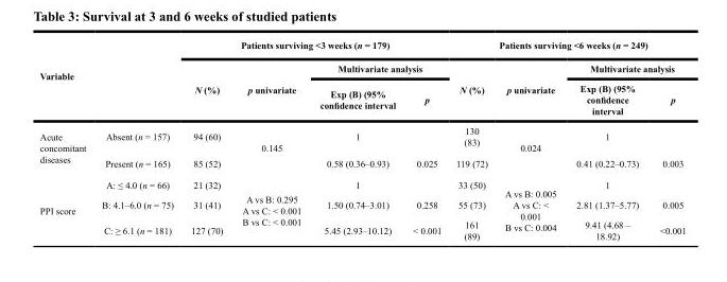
<table><thead><tr><td rowspan="3">Variable</td><td rowspan="3"></td><td colspan="4">Patients surviving &lt;3 weeks (n = 179)</td><td colspan="4">Patients surviving &lt;6 weeks (n = 249)</td></tr><tr><td rowspan="2">N (%)</td><td rowspan="2">p univariate</td><td colspan="2">Multivariate analysis</td><td rowspan="2">N (%)</td><td rowspan="2">p univariate</td><td colspan="2">Multivariate analysis</td></tr><tr><td>Exp (B) (95% confidence interval</td><td>p</td><td>Exp (B) (95% confidence interval</td><td>p</td></tr></thead><tbody><tr><td rowspan="2">Acute concomitant diseases</td><td>Absent (n = 157)</td><td>94 (60)</td><td rowspan="2">0.145</td><td>1</td><td></td><td>130 (83)</td><td rowspan="2">0.024</td><td>1</td><td></td></tr><tr><td>Present (n = 165)</td><td>85 (52)</td><td>0.58 (0.36–0.93)</td><td>0.025</td><td>119 (72)</td><td>0.41 (0.22–0.73)</td><td>0.003</td></tr><tr><td rowspan="3">PPI score</td><td>A: ≤ 4.0 (n = 66)</td><td>21 (32)</td><td rowspan="3">A vs B: 0.295 A vs C: &lt; 0.001 B vs C: &lt; 0.001</td><td>1</td><td></td><td>33 (50)</td><td rowspan="3">A vs B: 0.005 A vs C: &lt; 0.001 B vs C: 0.004</td><td>1</td><td></td></tr><tr><td>B: 4.1–6.0 (n = 75)</td><td>31 (41)</td><td>1.50 (0.74–3.01)</td><td>0.258</td><td>55 (73)</td><td>2.81 (1.37–5.77)</td><td>0.005</td></tr><tr><td>C: ≥ 6.1 (n = 181)</td><td>127 (70)</td><td>5.45 (2.93–10.12)</td><td>&lt; 0.001</td><td>161 (89)</td><td>9.41 (4.68 – 18.92)</td><td>&lt;0.001</td></tr></tbody></table>